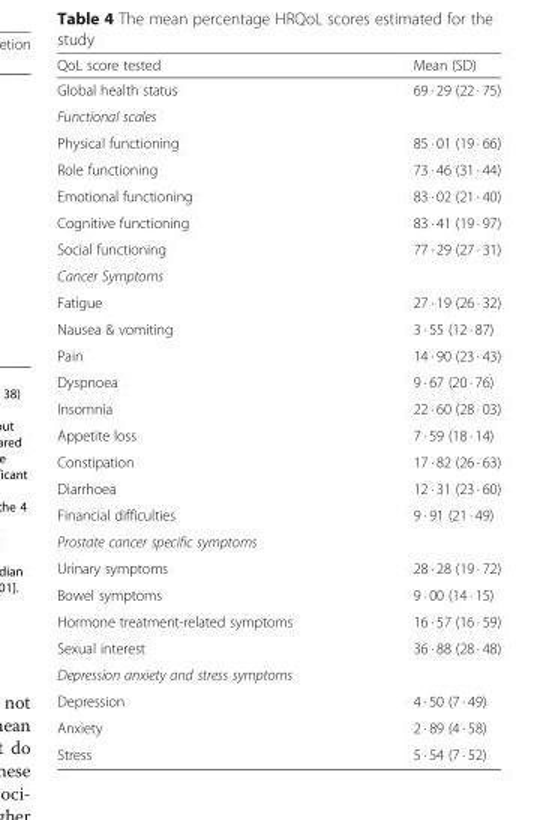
<table><thead><tr><td>QoL score tested</td><td>Mean (SD)</td></tr></thead><tbody><tr><td>Global health status</td><td>69 · 29 (22 · 75)</td></tr><tr><td colspan="2">Functional scales</td></tr><tr><td>Physical functioning</td><td>85 · 01 (19 · 66)</td></tr><tr><td>Role functioning</td><td>73 · 46 (31 · 44)</td></tr><tr><td>Emotional functioning</td><td>83 · 02 (21 · 40)</td></tr><tr><td>Cognitive functioning</td><td>83 · 41 (19 · 97)</td></tr><tr><td>Social functioning</td><td>77 · 29 (27 · 31)</td></tr><tr><td colspan="2">Cancer Symptoms</td></tr><tr><td>Fatigue</td><td>27 · 19 (26 · 32)</td></tr><tr><td>Nausea &amp; vomiting</td><td>3 · 55 (12 · 87)</td></tr><tr><td>Pain</td><td>14 · 90 (23 · 43)</td></tr><tr><td>Dyspnoea</td><td>9 · 67 (20 · 76)</td></tr><tr><td>Insomnia</td><td>22 · 60 (28 · 03)</td></tr><tr><td>Appetite loss</td><td>7 · 59 (18 · 14)</td></tr><tr><td>Constipation</td><td>17 · 82 (26 · 63)</td></tr><tr><td>Diarrhoea</td><td>12 · 31 (23 · 60)</td></tr><tr><td>Financial difficulties</td><td>9 · 91 (21 · 49)</td></tr><tr><td colspan="2">Prostate cancer specific symptoms</td></tr><tr><td>Urinary symptoms</td><td>28 · 28 (19 · 72)</td></tr><tr><td>Bowel symptoms</td><td>9 · 00 (14 · 15)</td></tr><tr><td>Hormone treatment-related symptoms</td><td>16 · 57 (16 · 59)</td></tr><tr><td>Sexual interest</td><td>36 · 88 (28 · 48)</td></tr><tr><td colspan="2">Depression anxiety and stress symptoms</td></tr><tr><td>Depression</td><td>4 · 50 (7 · 49)</td></tr><tr><td>Anxiety</td><td>2 · 89 (4 · 58)</td></tr><tr><td>Stress</td><td>5 · 54 (7 · 52)</td></tr></tbody></table>